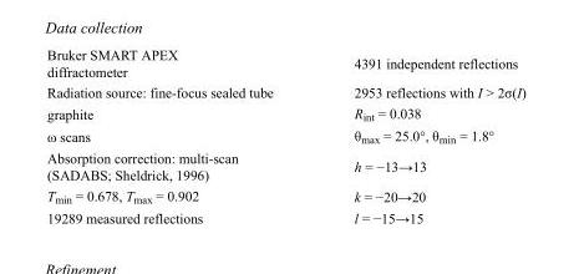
<table><tbody><tr><td>Bruker SMART APEX diffractometer</td><td>4391 independent reflections</td></tr><tr><td>Radiation source: fine-focus sealed tube</td><td>2953 reflections with I &gt; 2σ(I)</td></tr><tr><td>graphite</td><td>R<sub>int</sub> = 0.038</td></tr><tr><td>ω scans</td><td>θ<sub>max</sub> = 25.0°, θ<sub>min</sub> = 1.8°</td></tr><tr><td>Absorption correction: multi-scan (SADABS; Sheldrick, 1996)</td><td>h = −13→13</td></tr><tr><td>T<sub>min</sub> = 0.678, T<sub>max</sub> = 0.902</td><td>k = −20→20</td></tr><tr><td>19289 measured reflections</td><td>l = −15→15</td></tr></tbody></table>